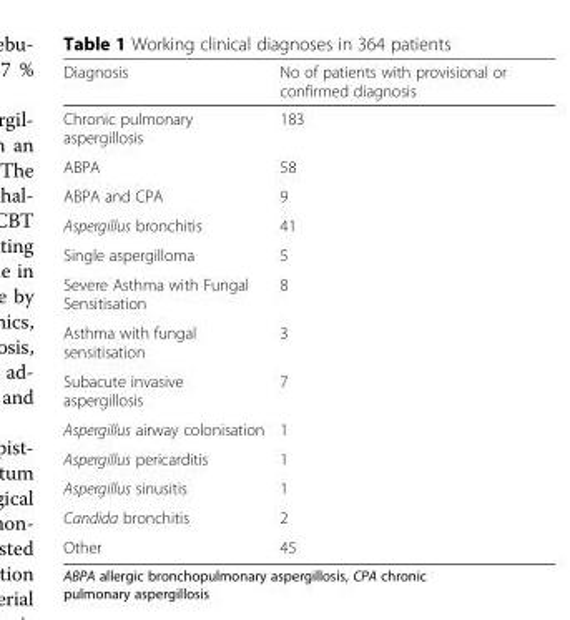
<table><thead><tr><td>Diagnosis</td><td>No of patients with provisional or confirmed diagnosis</td></tr></thead><tbody><tr><td>Chronic pulmonary aspergillosis</td><td>183</td></tr><tr><td>ABPA</td><td>58</td></tr><tr><td>ABPA and CPA</td><td>9</td></tr><tr><td>Aspergillus bronchitis</td><td>41</td></tr><tr><td>Single aspergilloma</td><td>5</td></tr><tr><td>Severe Asthma with Fungal Sensitisation</td><td>8</td></tr><tr><td>Asthma with fungal sensitisation</td><td>3</td></tr><tr><td>Subacute invasive aspergillosis</td><td>7</td></tr><tr><td>Aspergillus airway colonisation</td><td>1</td></tr><tr><td>Aspergillus pericarditis</td><td>1</td></tr><tr><td>Aspergillus sinusitis</td><td>1</td></tr><tr><td>Candida bronchitis</td><td>2</td></tr><tr><td>Other</td><td>45</td></tr></tbody></table>